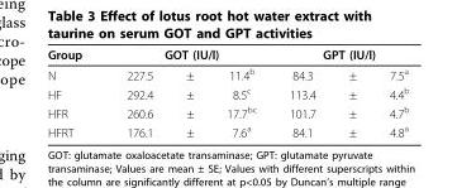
<table><thead><tr><td rowspan="2">Group N</td><td colspan="3">GOT (IU/l)</td><td colspan="3">GPT (IU/l)</td></tr><tr><td>227.5</td><td>±</td><td>11.4<sup>b</sup></td><td>84.3</td><td>±</td><td>7.5<sup>a</sup></td></tr></thead><tbody><tr><td>HF</td><td>292.4</td><td>±</td><td>8.5<sup>c</sup></td><td>113.4</td><td>±</td><td>4.4<sup>b</sup></td></tr><tr><td>HFR</td><td>260.6</td><td>±</td><td>17.7<sup>bc</sup></td><td>101.7</td><td>±</td><td>4.7<sup>b</sup></td></tr><tr><td>HFRT</td><td>176.1</td><td>±</td><td>7.6<sup>a</sup></td><td>84.1</td><td>±</td><td>4.8<sup>a</sup></td></tr></tbody></table>